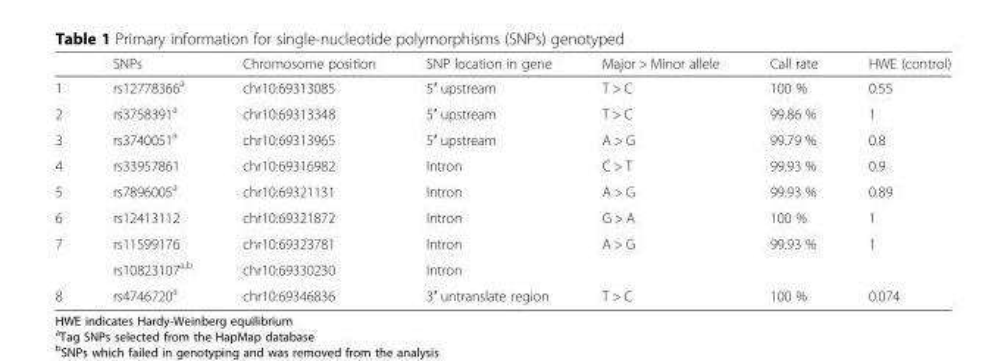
<table><thead><tr><td></td><td>SNPs</td><td>Chromosome position</td><td>SNP location in gene</td><td>Major &gt; Minor allele</td><td>Call rate</td><td>HWE (control)</td></tr></thead><tbody><tr><td>1</td><td>rs12778366<sup>a</sup></td><td>chr10:69313085</td><td>5′ upstream</td><td>T &gt; C</td><td>100 %</td><td>0.55</td></tr><tr><td>2</td><td>rs3758391<sup>a</sup></td><td>chr10:69313348</td><td>5′ upstream</td><td>T &gt; C</td><td>99.86 %</td><td>1</td></tr><tr><td>3</td><td>rs3740051<sup>a</sup></td><td>chr10:69313965</td><td>5′ upstream</td><td>A &gt; G</td><td>99.79 %</td><td>0.8</td></tr><tr><td>4</td><td>rs33957861</td><td>chr10:69316982</td><td>Intron</td><td>C &gt; T</td><td>99.93 %</td><td>0.9</td></tr><tr><td>5</td><td>rs7896005<sup>a</sup></td><td>chr10:69321131</td><td>Intron</td><td>A &gt; G</td><td>99.93 %</td><td>0.89</td></tr><tr><td>6</td><td>rs12413112</td><td>chr10:69321872</td><td>Intron</td><td>G &gt; A</td><td>100 %</td><td>1</td></tr><tr><td rowspan="2">7</td><td>rs11599176</td><td>chr10:69323781</td><td>Intron</td><td>A &gt; G</td><td>99.93 %</td><td>1</td></tr><tr><td>rs10823107<sup>a,b</sup></td><td>chr10:69330230</td><td>Intron</td><td></td><td></td><td></td></tr><tr><td>8</td><td>rs4746720<sup>a</sup></td><td>chr10:69346836</td><td>3′ untranslate region</td><td>T &gt; C</td><td>100 %</td><td>0.074</td></tr></tbody></table>